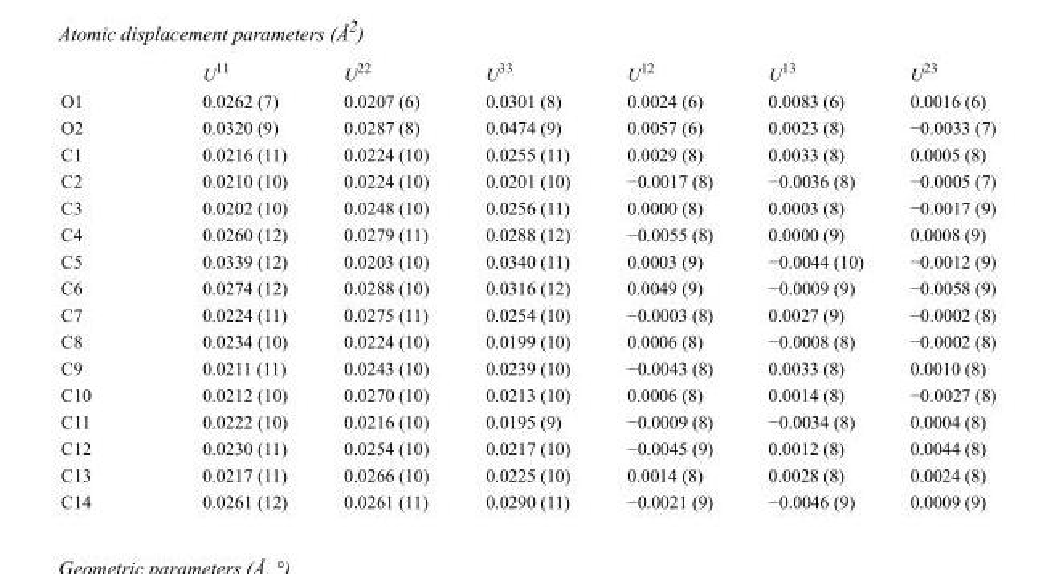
<table><thead><tr><td></td><td>U<sup>11</sup></td><td>U<sup>22</sup></td><td>U<sup>33</sup></td><td>U<sup>12</sup></td><td>U<sup>13</sup></td><td>U<sup>23</sup></td></tr></thead><tbody><tr><td>O1</td><td>0.0262 (7)</td><td>0.0207 (6)</td><td>0.0301 (8)</td><td>0.0024 (6)</td><td>0.0083 (6)</td><td>0.0016 (6)</td></tr><tr><td>O2</td><td>0.0320 (9)</td><td>0.0287 (8)</td><td>0.0474 (9)</td><td>0.0057 (6)</td><td>0.0023 (8)</td><td>−0.0033 (7)</td></tr><tr><td>C1</td><td>0.0216 (11)</td><td>0.0224 (10)</td><td>0.0255 (11)</td><td>0.0029 (8)</td><td>0.0033 (8)</td><td>0.0005 (8)</td></tr><tr><td>C2</td><td>0.0210 (10)</td><td>0.0224 (10)</td><td>0.0201 (10)</td><td>−0.0017 (8)</td><td>−0.0036 (8)</td><td>−0.0005 (7)</td></tr><tr><td>C3</td><td>0.0202 (10)</td><td>0.0248 (10)</td><td>0.0256 (11)</td><td>0.0000 (8)</td><td>0.0003 (8)</td><td>−0.0017 (9)</td></tr><tr><td>C4</td><td>0.0260 (12)</td><td>0.0279 (11)</td><td>0.0288 (12)</td><td>−0.0055 (8)</td><td>0.0000 (9)</td><td>0.0008 (9)</td></tr><tr><td>C5</td><td>0.0339 (12)</td><td>0.0203 (10)</td><td>0.0340 (11)</td><td>0.0003 (9)</td><td>−0.0044 (10)</td><td>−0.0012 (9)</td></tr><tr><td>C6</td><td>0.0274 (12)</td><td>0.0288 (10)</td><td>0.0316 (12)</td><td>0.0049 (9)</td><td>−0.0009 (9)</td><td>−0.0058 (9)</td></tr><tr><td>C7</td><td>0.0224 (11)</td><td>0.0275 (11)</td><td>0.0254 (10)</td><td>−0.0003 (8)</td><td>0.0027 (9)</td><td>−0.0002 (8)</td></tr><tr><td>C8</td><td>0.0234 (10)</td><td>0.0224 (10)</td><td>0.0199 (10)</td><td>0.0006 (8)</td><td>−0.0008 (8)</td><td>−0.0002 (8)</td></tr><tr><td>C9</td><td>0.0211 (11)</td><td>0.0243 (10)</td><td>0.0239 (10)</td><td>−0.0043 (8)</td><td>0.0033 (8)</td><td>0.0010 (8)</td></tr><tr><td>C10</td><td>0.0212 (10)</td><td>0.0270 (10)</td><td>0.0213 (10)</td><td>0.0006 (8)</td><td>0.0014 (8)</td><td>−0.0027 (8)</td></tr><tr><td>C11</td><td>0.0222 (10)</td><td>0.0216 (10)</td><td>0.0195 (9)</td><td>−0.0009 (8)</td><td>−0.0034 (8)</td><td>0.0004 (8)</td></tr><tr><td>C12</td><td>0.0230 (11)</td><td>0.0254 (10)</td><td>0.0217 (10)</td><td>−0.0045 (9)</td><td>0.0012 (8)</td><td>0.0044 (8)</td></tr><tr><td>C13</td><td>0.0217 (11)</td><td>0.0266 (10)</td><td>0.0225 (10)</td><td>0.0014 (8)</td><td>0.0028 (8)</td><td>0.0024 (8)</td></tr><tr><td>C14</td><td>0.0261 (12)</td><td>0.0261 (11)</td><td>0.0290 (11)</td><td>−0.0021 (9)</td><td>−0.0046 (9)</td><td>0.0009 (9)</td></tr></tbody></table>